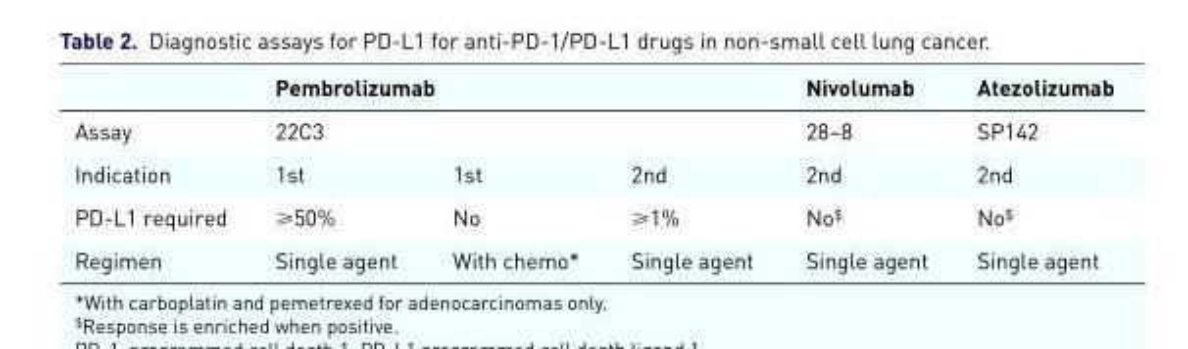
<table><thead><tr><td rowspan="3">Assay Indication</td><td rowspan="2" colspan="3">Pembrolizumab 22C3</td><td rowspan="3">Nivolumab 28–8 2nd</td><td rowspan="3">Atezolizumab SP142 2nd</td></tr><tr></tr><tr><td>1st</td><td>1st</td><td>2nd</td></tr></thead><tbody><tr><td>PD-L1 required</td><td>⩾50%</td><td>No</td><td>⩾1%</td><td>No<sup>$</sup></td><td>No<sup>$</sup></td></tr><tr><td>Regimen</td><td>Single agent</td><td>With chemo*</td><td>Single agent</td><td>Single agent</td><td>Single agent</td></tr></tbody></table>